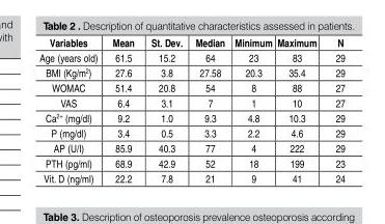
<table><thead><tr><td>Variables</td><td>Mean</td><td>St. Dev.</td><td>Median</td><td>Minimum</td><td>Maximum</td><td>N</td></tr></thead><tbody><tr><td>Age (years old)</td><td>61.5</td><td>15.2</td><td>64</td><td>23</td><td>83</td><td>29</td></tr><tr><td>BMI (Kg/m2)</td><td>27.6</td><td>3.8</td><td>27.58</td><td>20.3</td><td>35.4</td><td>29</td></tr><tr><td>WOMAC</td><td>51.4</td><td>20.8</td><td>54</td><td>8</td><td>88</td><td>27</td></tr><tr><td>VAS</td><td>6.4</td><td>3.1</td><td>7</td><td>1</td><td>10</td><td>27</td></tr><tr><td>Ca2+ (mg/dl)</td><td>9.2</td><td>1.0</td><td>9.3</td><td>4.8</td><td>10.3</td><td>29</td></tr><tr><td>P (mg/dl)</td><td>3.4</td><td>0.5</td><td>3.3</td><td>2.2</td><td>4.6</td><td>29</td></tr><tr><td>AP (U/l)</td><td>85.9</td><td>40.3</td><td>77</td><td>4</td><td>222</td><td>29</td></tr><tr><td>PTH (pg/ml)</td><td>68.9</td><td>42.9</td><td>52</td><td>18</td><td>199</td><td>23</td></tr><tr><td>Vit. D (ng/ml)</td><td>22.2</td><td>7.8</td><td>21</td><td>9</td><td>41</td><td>24</td></tr></tbody></table>